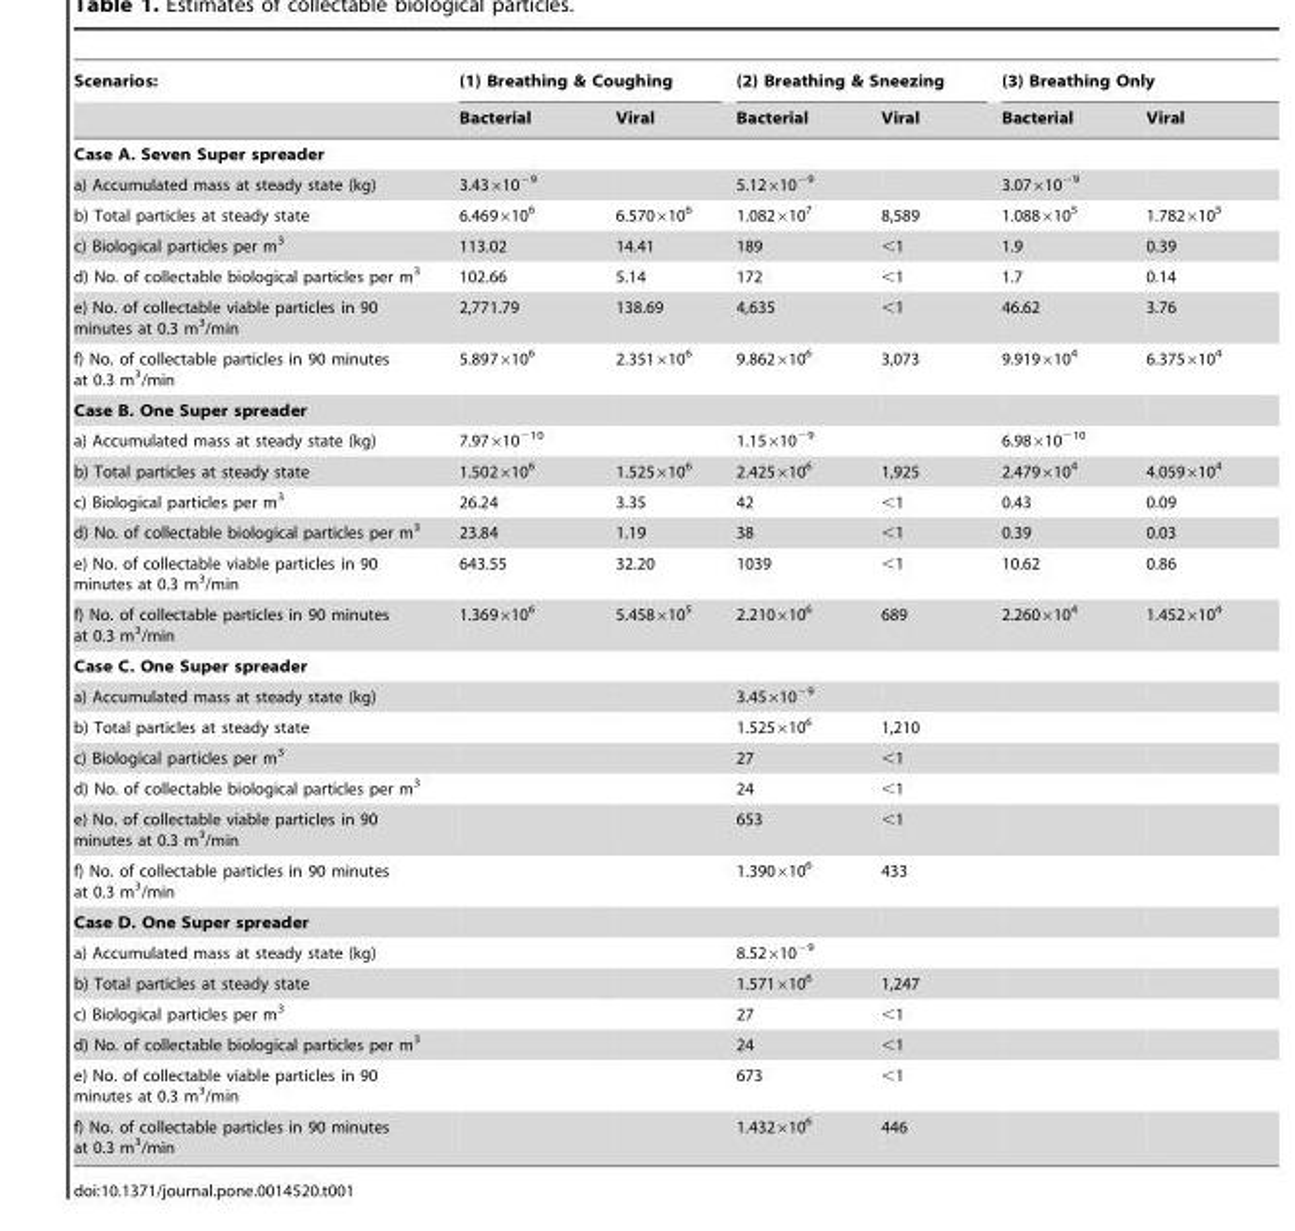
<table><thead><tr><td rowspan="2">Scenarios:</td><td colspan="2">(1) Breathing &amp; Coughing</td><td colspan="2">(2) Breathing &amp; Sneezing</td><td colspan="2">(3) Breathing Only</td></tr><tr><td>Bacterial</td><td>Viral</td><td>Bacterial</td><td>Viral</td><td>Bacterial</td><td>Viral</td></tr></thead><tbody><tr><td colspan="7">Case A. Seven Super spreader</td></tr><tr><td>a) Accumulated mass at steady state (kg)</td><td>3.43×10<sup>−9</sup></td><td></td><td>5.12×10<sup>−9</sup></td><td></td><td>3.07×10<sup>−9</sup></td><td></td></tr><tr><td>b) Total particles at steady state</td><td>6.469×10<sup>6</sup></td><td>6.570×10<sup>6</sup></td><td>1.082×10<sup>7</sup></td><td>8,589</td><td>1.088×10<sup>5</sup></td><td>1.782×10<sup>5</sup></td></tr><tr><td>c) Biological particles per m<sup>3</sup></td><td>113.02</td><td>14.41</td><td>189</td><td>&lt;1</td><td>1.9</td><td>0.39</td></tr><tr><td>d) No. of collectable biological particles per m<sup>3</sup></td><td>102.66</td><td>5.14</td><td>172</td><td>&lt;1</td><td>1.7</td><td>0.14</td></tr><tr><td>e) No. of collectable viable particles in 90 minutes at 0.3 m<sup>3</sup>/min</td><td>2,771.79</td><td>138.69</td><td>4,635</td><td>&lt;1</td><td>46.62</td><td>3.76</td></tr><tr><td>f) No. of collectable particles in 90 minutes at 0.3 m<sup>3</sup>/min</td><td>5.897×10<sup>6</sup></td><td>2.351×10<sup>6</sup></td><td>9.862×10<sup>6</sup></td><td>3,073</td><td>9.919×10<sup>4</sup></td><td>6.375×10<sup>4</sup></td></tr><tr><td colspan="7">Case B. One Super spreader</td></tr><tr><td>a) Accumulated mass at steady state (kg)</td><td>7.97×10<sup>−10</sup></td><td></td><td>1.15×10<sup>−9</sup></td><td></td><td>6.98×10<sup>−10</sup></td><td></td></tr><tr><td>b) Total particles at steady state</td><td>1.502×10<sup>6</sup></td><td>1.525×10<sup>6</sup></td><td>2.425×10<sup>6</sup></td><td>1,925</td><td>2.479×10<sup>4</sup></td><td>4.059×10<sup>4</sup></td></tr><tr><td>c) Biological particles per m<sup>3</sup></td><td>26.24</td><td>3.35</td><td>42</td><td>&lt;1</td><td>0.43</td><td>0.09</td></tr><tr><td>d) No. of collectable biological particles per m<sup>3</sup></td><td>23.84</td><td>1.19</td><td>38</td><td>&lt;1</td><td>0.39</td><td>0.03</td></tr><tr><td>e) No. of collectable viable particles in 90 minutes at 0.3 m<sup>3</sup>/min</td><td>643.55</td><td>32.20</td><td>1039</td><td>&lt;1</td><td>10.62</td><td>0.86</td></tr><tr><td>f) No. of collectable particles in 90 minutes at 0.3 m<sup>3</sup>/min</td><td>1.369×10<sup>6</sup></td><td>5.458×10<sup>5</sup></td><td>2.210×10<sup>6</sup></td><td>689</td><td>2.260×10<sup>4</sup></td><td>1.452×10<sup>4</sup></td></tr><tr><td colspan="7">Case C. One Super spreader</td></tr><tr><td>a) Accumulated mass at steady state (kg)</td><td></td><td></td><td>3.45×10<sup>−9</sup></td><td></td><td></td><td></td></tr><tr><td>b) Total particles at steady state</td><td></td><td></td><td>1.525×10<sup>6</sup></td><td>1,210</td><td></td><td></td></tr><tr><td>c) Biological particles per m<sup>3</sup></td><td></td><td></td><td>27</td><td>&lt;1</td><td></td><td></td></tr><tr><td>d) No. of collectable biological particles per m<sup>3</sup></td><td></td><td></td><td>24</td><td>&lt;1</td><td></td><td></td></tr><tr><td>e) No. of collectable viable particles in 90 minutes at 0.3 m<sup>3</sup>/min</td><td></td><td></td><td>653</td><td>&lt;1</td><td></td><td></td></tr><tr><td>f) No. of collectable particles in 90 minutes at 0.3 m<sup>3</sup>/min</td><td></td><td></td><td>1.390×10<sup>6</sup></td><td>433</td><td></td><td></td></tr><tr><td colspan="7">Case D. One Super spreader</td></tr><tr><td>a) Accumulated mass at steady state (kg)</td><td></td><td></td><td>8.52×10<sup>−9</sup></td><td></td><td></td><td></td></tr><tr><td>b) Total particles at steady state</td><td></td><td></td><td>1.571×10<sup>6</sup></td><td>1,247</td><td></td><td></td></tr><tr><td>c) Biological particles per m<sup>3</sup></td><td></td><td></td><td>27</td><td>&lt;1</td><td></td><td></td></tr><tr><td>d) No. of collectable biological particles per m<sup>3</sup></td><td></td><td></td><td>24</td><td>&lt;1</td><td></td><td></td></tr><tr><td>e) No. of collectable viable particles in 90 minutes at 0.3 m<sup>3</sup>/min</td><td></td><td></td><td>673</td><td>&lt;1</td><td></td><td></td></tr><tr><td>f) No. of collectable particles in 90 minutes at 0.3 m<sup>3</sup>/min</td><td></td><td></td><td>1.432×10<sup>6</sup></td><td>446</td><td></td><td></td></tr></tbody></table>